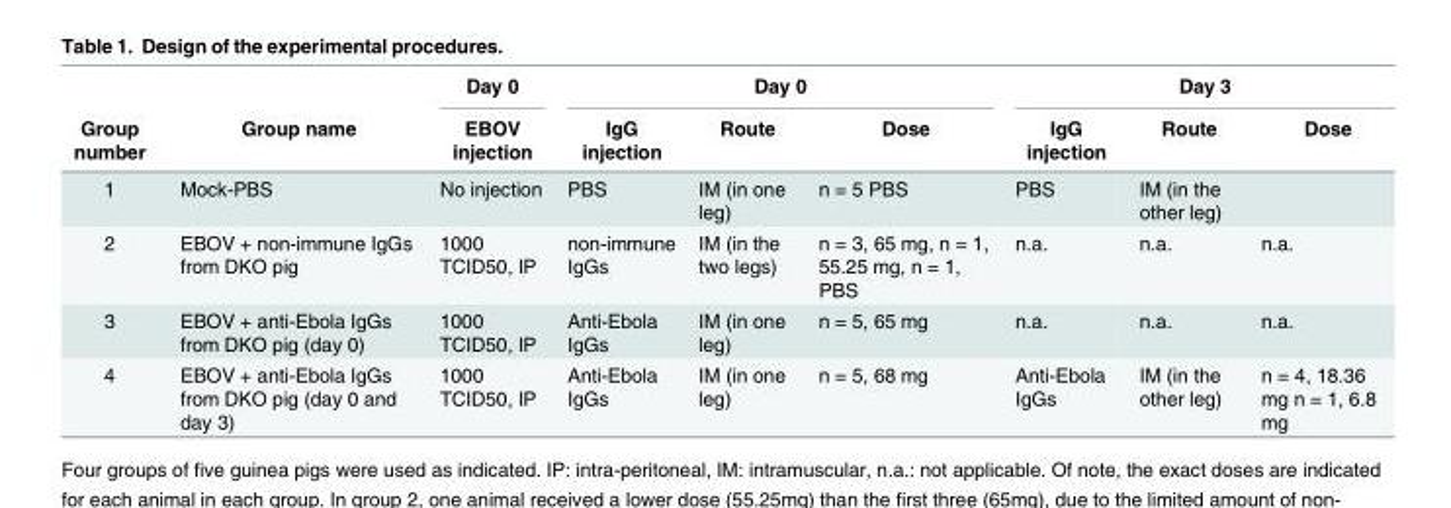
<table><thead><tr><td rowspan="2">Group number</td><td rowspan="2">Group name</td><td rowspan="2">Day 0 EBOV injection</td><td colspan="3">Day 0</td><td colspan="3">Day 3</td></tr><tr><td>IgG injection</td><td>Route</td><td>Dose</td><td>IgG injection</td><td>Route</td><td>Dose</td></tr></thead><tbody><tr><td>1</td><td>Mock-PBS</td><td>No injection</td><td>PBS</td><td>IM (in one leg)</td><td>n = 5 PBS</td><td>PBS</td><td>IM (in the other leg)</td><td></td></tr><tr><td>2</td><td>EBOV + non-immune IgGs from DKO pig</td><td>1000 TCID50, IP</td><td>non-immune IgGs</td><td>IM (in the two legs)</td><td>n = 3, 65 mg, n = 1, 55.25 mg, n = 1, PBS</td><td>n.a.</td><td>n.a.</td><td>n.a.</td></tr><tr><td>3</td><td>EBOV + anti-Ebola IgGs from DKO pig (day 0)</td><td>1000 TCID50, IP</td><td>Anti-Ebola IgGs</td><td>IM (in one leg)</td><td>n = 5, 65 mg</td><td>n.a.</td><td>n.a.</td><td>n.a.</td></tr><tr><td>4</td><td>EBOV + anti-Ebola IgGs from DKO pig (day 0 and day 3)</td><td>1000 TCID50, IP</td><td>Anti-Ebola IgGs</td><td>IM (in one leg)</td><td>n = 5, 68 mg</td><td>Anti-Ebola IgGs</td><td>IM (in the other leg)</td><td>n = 4, 18.36 mg n = 1, 6.8 mg</td></tr></tbody></table>